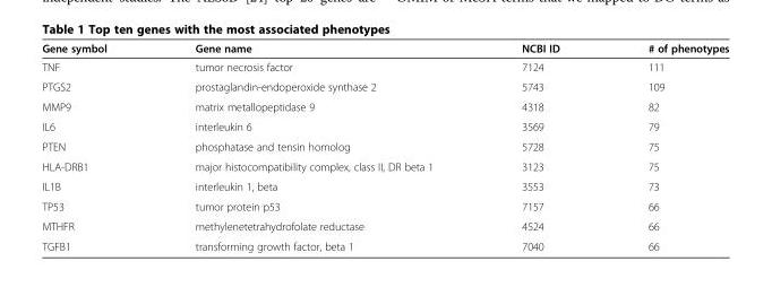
<table><thead><tr><td>Gene symbol</td><td>Gene name</td><td>NCBI ID</td><td># of phenotypes</td></tr></thead><tbody><tr><td>TNF</td><td>tumor necrosis factor</td><td>7124</td><td>111</td></tr><tr><td>PTGS2</td><td>prostaglandin-endoperoxide synthase 2</td><td>5743</td><td>109</td></tr><tr><td>MMP9</td><td>matrix metallopeptidase 9</td><td>4318</td><td>82</td></tr><tr><td>IL6</td><td>interleukin 6</td><td>3569</td><td>79</td></tr><tr><td>PTEN</td><td>phosphatase and tensin homolog</td><td>5728</td><td>75</td></tr><tr><td>HLA-DRB1</td><td>major histocompatibility complex, class II, DR beta 1</td><td>3123</td><td>75</td></tr><tr><td>IL1B</td><td>interleukin 1, beta</td><td>3553</td><td>73</td></tr><tr><td>TP53</td><td>tumor protein p53</td><td>7157</td><td>66</td></tr><tr><td>MTHFR</td><td>methylenetetrahydrofolate reductase</td><td>4524</td><td>66</td></tr><tr><td>TGFB1</td><td>transforming growth factor, beta 1</td><td>7040</td><td>66</td></tr></tbody></table>